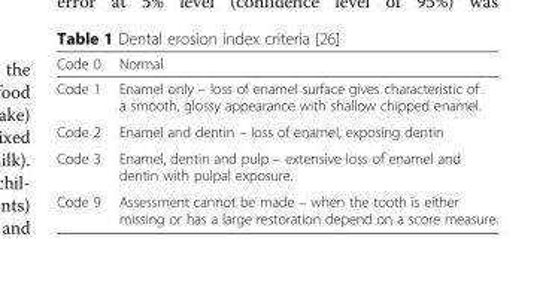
<table><thead><tr><td>Code 0</td><td>Normal</td></tr></thead><tbody><tr><td>Code 1</td><td>Enamel only – loss of enamel surface gives characteristic of a smooth, glossy appearance with shallow chipped enamel.</td></tr><tr><td>Code 2</td><td>Enamel and dentin – loss of enamel, exposing dentin</td></tr><tr><td>Code 3</td><td>Enamel, dentin and pulp – extensive loss of enamel and dentin with pulpal exposure.</td></tr><tr><td>Code 9</td><td>Assessment cannot be made – when the tooth is either missing or has a large restoration depend on a score measure.</td></tr></tbody></table>